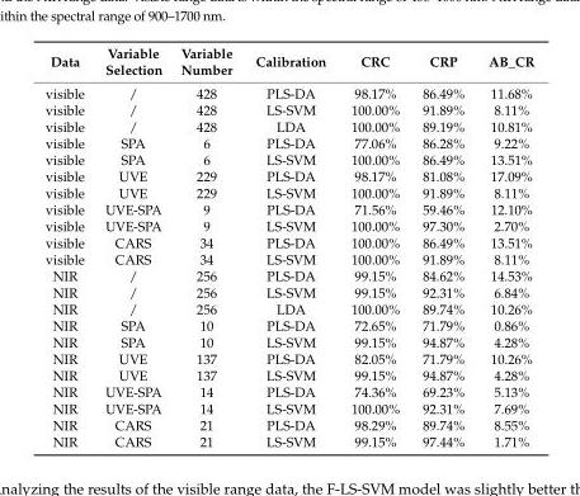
<table><thead><tr><td>Data</td><td>Variable Selection</td><td>Variable Number</td><td>Calibration</td><td>CRC</td><td>CRP</td><td>AB_CR</td></tr></thead><tbody><tr><td>visible</td><td>/</td><td>428</td><td>PLS-DA</td><td>98.17%</td><td>86.49%</td><td>11.68%</td></tr><tr><td>visible</td><td>/</td><td>428</td><td>LS-SVM</td><td>100.00%</td><td>91.89%</td><td>8.11%</td></tr><tr><td>visible</td><td>/</td><td>428</td><td>LDA</td><td>100.00%</td><td>89.19%</td><td>10.81%</td></tr><tr><td>visible</td><td>SPA</td><td>6</td><td>PLS-DA</td><td>77.06%</td><td>86.28%</td><td>9.22%</td></tr><tr><td>visible</td><td>SPA</td><td>6</td><td>LS-SVM</td><td>100.00%</td><td>86.49%</td><td>13.51%</td></tr><tr><td>visible</td><td>UVE</td><td>229</td><td>PLS-DA</td><td>98.17%</td><td>81.08%</td><td>17.09%</td></tr><tr><td>visible</td><td>UVE</td><td>229</td><td>LS-SVM</td><td>100.00%</td><td>91.89%</td><td>8.11%</td></tr><tr><td>visible</td><td>UVE-SPA</td><td>9</td><td>PLS-DA</td><td>71.56%</td><td>59.46%</td><td>12.10%</td></tr><tr><td>visible</td><td>UVE-SPA</td><td>9</td><td>LS-SVM</td><td>100.00%</td><td>97.30%</td><td>2.70%</td></tr><tr><td>visible</td><td>CARS</td><td>34</td><td>PLS-DA</td><td>100.00%</td><td>86.49%</td><td>13.51%</td></tr><tr><td>visible</td><td>CARS</td><td>34</td><td>LS-SVM</td><td>100.00%</td><td>91.89%</td><td>8.11%</td></tr><tr><td>NIR</td><td>/</td><td>256</td><td>PLS-DA</td><td>99.15%</td><td>84.62%</td><td>14.53%</td></tr><tr><td>NIR</td><td>/</td><td>256</td><td>LS-SVM</td><td>99.15%</td><td>92.31%</td><td>6.84%</td></tr><tr><td>NIR</td><td>/</td><td>256</td><td>LDA</td><td>100.00%</td><td>89.74%</td><td>10.26%</td></tr><tr><td>NIR</td><td>SPA</td><td>10</td><td>PLS-DA</td><td>72.65%</td><td>71.79%</td><td>0.86%</td></tr><tr><td>NIR</td><td>SPA</td><td>10</td><td>LS-SVM</td><td>99.15%</td><td>94.87%</td><td>4.28%</td></tr><tr><td>NIR</td><td>UVE</td><td>137</td><td>PLS-DA</td><td>82.05%</td><td>71.79%</td><td>10.26%</td></tr><tr><td>NIR</td><td>UVE</td><td>137</td><td>LS-SVM</td><td>99.15%</td><td>94.87%</td><td>4.28%</td></tr><tr><td>NIR</td><td>UVE-SPA</td><td>14</td><td>PLS-DA</td><td>74.36%</td><td>69.23%</td><td>5.13%</td></tr><tr><td>NIR</td><td>UVE-SPA</td><td>14</td><td>LS-SVM</td><td>100.00%</td><td>92.31%</td><td>7.69%</td></tr><tr><td>NIR</td><td>CARS</td><td>21</td><td>PLS-DA</td><td>98.29%</td><td>89.74%</td><td>8.55%</td></tr><tr><td>NIR</td><td>CARS</td><td>21</td><td>LS-SVM</td><td>99.15%</td><td>97.44%</td><td>1.71%</td></tr></tbody></table>